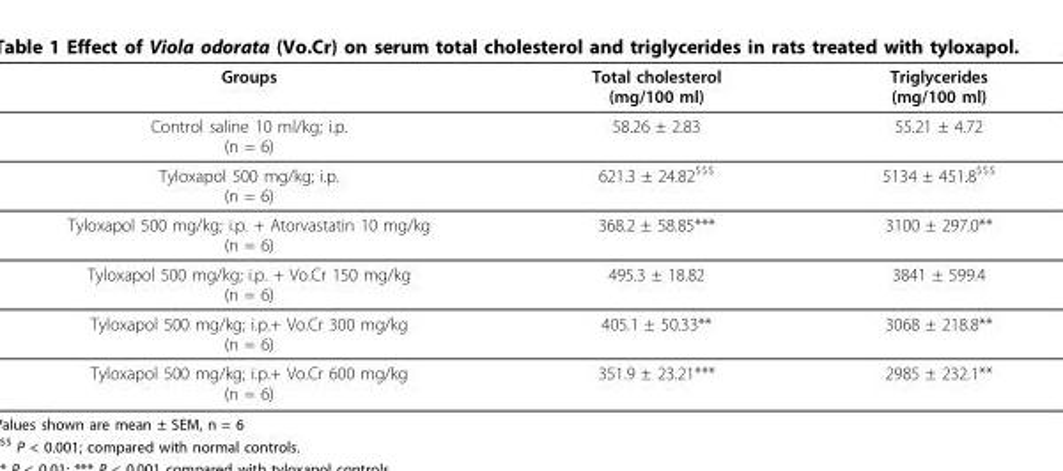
<table><thead><tr><td>Groups</td><td>Total cholesterol (mg/100 ml)</td><td>Triglycerides (mg/100 ml)</td></tr></thead><tbody><tr><td>Control saline 10 ml/kg; i.p. (n = 6)</td><td>58.26 ± 2.83</td><td>55.21 ± 4.72</td></tr><tr><td>Tyloxapol 500 mg/kg; i.p. (n = 6)</td><td>621.3 ± 24.82<sup>$$$</sup></td><td>5134 ± 451.8<sup>$$$</sup></td></tr><tr><td>Tyloxapol 500 mg/kg; i.p. + Atorvastatin 10 mg/kg (n = 6)</td><td>368.2 ± 58.85***</td><td>3100 ± 297.0**</td></tr><tr><td>Tyloxapol 500 mg/kg; i.p. + Vo.Cr 150 mg/kg (n = 6)</td><td>495.3 ± 18.82</td><td>3841 ± 599.4</td></tr><tr><td>Tyloxapol 500 mg/kg; i.p.+ Vo.Cr 300 mg/kg (n = 6)</td><td>405.1 ± 50.33**</td><td>3068 ± 218.8**</td></tr><tr><td>Tyloxapol 500 mg/kg; i.p.+ Vo.Cr 600 mg/kg (n = 6)</td><td>351.9 ± 23.21***</td><td>2985 ± 232.1**</td></tr></tbody></table>